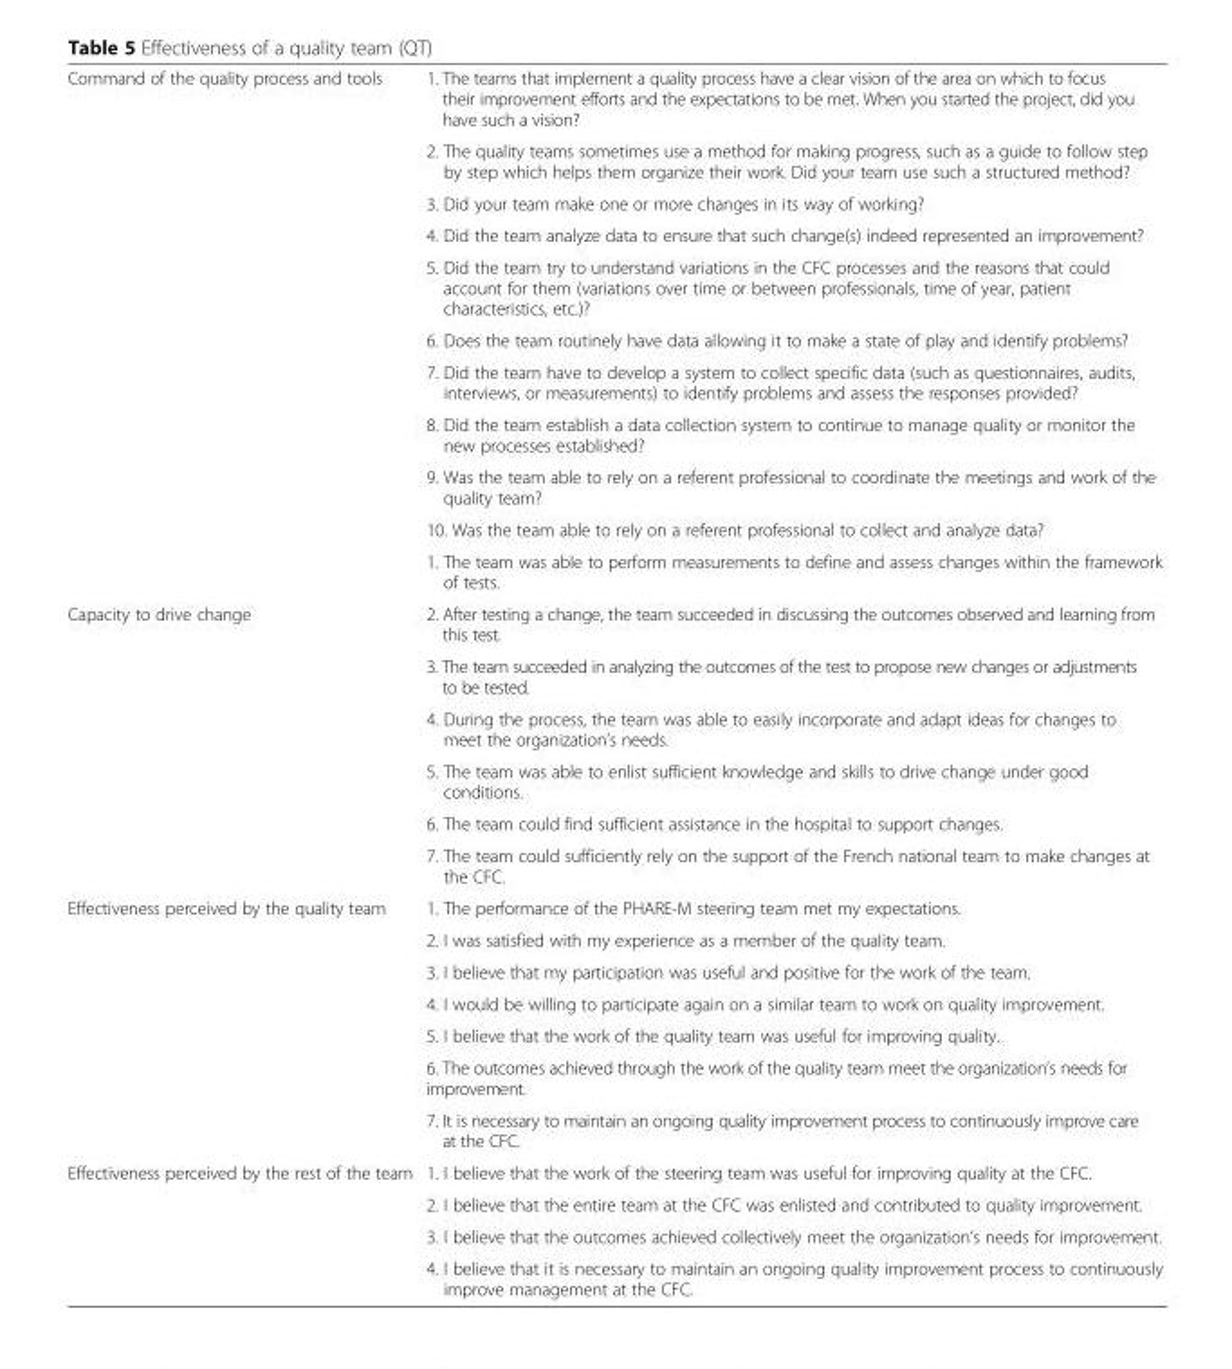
<table><tbody><tr><td rowspan="11">Command of the quality process and tools</td><td>1. The teams that implement a quality process have a clear vision of the area on which to focus their improvement efforts and the expectations to be met. When you started the project, did you have such a vision?</td></tr><tr><td>2. The quality teams sometimes use a method for making progress, such as a guide to follow step by step which helps them organize their work. Did your team use such a structured method?</td></tr><tr><td>3. Did your team make one or more changes in its way of working?</td></tr><tr><td>4. Did the team analyze data to ensure that such change(s) indeed represented an improvement?</td></tr><tr><td>5. Did the team try to understand variations in the CFC processes and the reasons that could account for them (variations over time or between professionals, time of year, patient characteristics, etc.)?</td></tr><tr><td>6. Does the team routinely have data allowing it to make a state of play and identify problems?</td></tr><tr><td>7. Did the team have to develop a system to collect specific data (such as questionnaires, audits, interviews, or measurements) to identify problems and assess the responses provided?</td></tr><tr><td>8. Did the team establish a data collection system to continue to manage quality or monitor the new processes established?</td></tr><tr><td>9. Was the team able to rely on a referent professional to coordinate the meetings and work of the quality team?</td></tr><tr><td>10. Was the team able to rely on a referent professional to collect and analyze data?</td></tr><tr><td>1. The team was able to perform measurements to define and assess changes within the framework of tests.</td></tr><tr><td rowspan="6">Capacity to drive change</td><td>2. After testing a change, the team succeeded in discussing the outcomes observed and learning from this test.</td></tr><tr><td>3. The team succeeded in analyzing the outcomes of the test to propose new changes or adjustments to be tested.</td></tr><tr><td>4. During the process, the team was able to easily incorporate and adapt ideas for changes to meet the organization’s needs.</td></tr><tr><td>5. The team was able to enlist sufficient knowledge and skills to drive change under good conditions.</td></tr><tr><td>6. The team could find sufficient assistance in the hospital to support changes.</td></tr><tr><td>7. The team could sufficiently rely on the support of the French national team to make changes at the CFC.</td></tr><tr><td rowspan="7">Effectiveness perceived by the quality team</td><td>1. The performance of the PHARE-M steering team met my expectations.</td></tr><tr><td>2. I was satisfied with my experience as a member of the quality team.</td></tr><tr><td>3. I believe that my participation was useful and positive for the work of the team.</td></tr><tr><td>4. I would be willing to participate again on a similar team to work on quality improvement.</td></tr><tr><td>5. I believe that the work of the quality team was useful for improving quality.</td></tr><tr><td>6. The outcomes achieved through the work of the quality team meet the organization’s needs for improvement.</td></tr><tr><td>7. It is necessary to maintain an ongoing quality improvement process to continuously improve care at the CFC.</td></tr><tr><td rowspan="4">Effectiveness perceived by the rest of the team</td><td>1. I believe that the work of the steering team was useful for improving quality at the CFC.</td></tr><tr><td>2. I believe that the entire team at the CFC was enlisted and contributed to quality improvement.</td></tr><tr><td>3. I believe that the outcomes achieved collectively meet the organization’s needs for improvement.</td></tr><tr><td>4. I believe that it is necessary to maintain an ongoing quality improvement process to continuously improve management at the CFC.</td></tr></tbody></table>